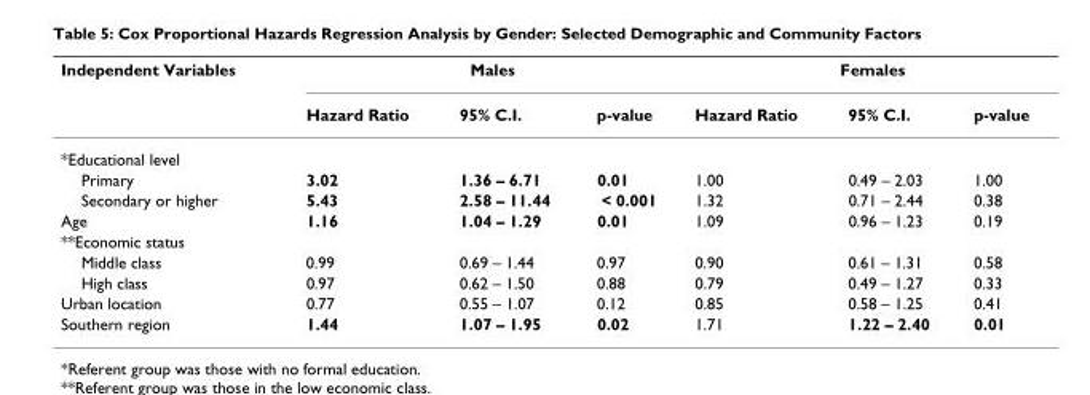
<table><thead><tr><td rowspan="2">Independent Variables</td><td colspan="3">Males</td><td colspan="3">Females</td></tr><tr><td>Hazard Ratio</td><td>95% C.I.</td><td>p-value</td><td>Hazard Ratio</td><td>95% C.I.</td><td>p-value</td></tr></thead><tbody><tr><td colspan="7">*Educational level</td></tr><tr><td>Primary</td><td>3.02</td><td>1.36 – 6.71</td><td>0.01</td><td>1.00</td><td>0.49 – 2.03</td><td>1.00</td></tr><tr><td>Secondary or higher</td><td>5.43</td><td>2.58 – 11.44</td><td>&lt; 0.001</td><td>1.32</td><td>0.71 – 2.44</td><td>0.38</td></tr><tr><td>Age</td><td>1.16</td><td>1.04 – 1.29</td><td>0.01</td><td>1.09</td><td>0.96 – 1.23</td><td>0.19</td></tr><tr><td colspan="7">**Economic status</td></tr><tr><td>Middle class</td><td>0.99</td><td>0.69 – 1.44</td><td>0.97</td><td>0.90</td><td>0.61 – 1.31</td><td>0.58</td></tr><tr><td>High class</td><td>0.97</td><td>0.62 – 1.50</td><td>0.88</td><td>0.79</td><td>0.49 – 1.27</td><td>0.33</td></tr><tr><td>Urban location</td><td>0.77</td><td>0.55 – 1.07</td><td>0.12</td><td>0.85</td><td>0.58 – 1.25</td><td>0.41</td></tr><tr><td>Southern region</td><td>1.44</td><td>1.07 – 1.95</td><td>0.02</td><td>1.71</td><td>1.22 – 2.40</td><td>0.01</td></tr></tbody></table>